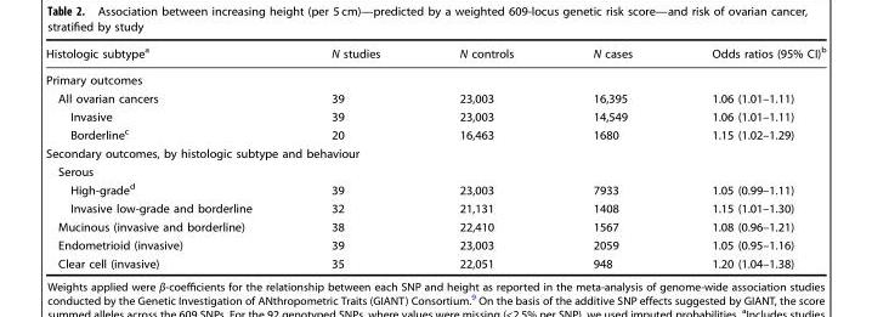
<table><thead><tr><td>Histologic subtype<sup>a</sup></td><td>N studies</td><td>N controls</td><td>N cases</td><td>Odds ratios (95% CI)<sup>b</sup></td></tr></thead><tbody><tr><td colspan="5">Primary outcomes</td></tr><tr><td>All ovarian cancers</td><td>39</td><td>23,003</td><td>16,395</td><td>1.06 (1.01–1.11)</td></tr><tr><td>Invasive</td><td>39</td><td>23,003</td><td>14,549</td><td>1.06 (1.01–1.11)</td></tr><tr><td>Borderline<sup>c</sup></td><td>20</td><td>16,463</td><td>1680</td><td>1.15 (1.02–1.29)</td></tr><tr><td colspan="5">Secondary outcomes, by histologic subtype and behaviour</td></tr><tr><td colspan="5">Serous</td></tr><tr><td>High-grade<sup>d</sup></td><td>39</td><td>23,003</td><td>7933</td><td>1.05 (0.99–1.11)</td></tr><tr><td>Invasive low-grade and borderline</td><td>32</td><td>21,131</td><td>1408</td><td>1.15 (1.01–1.30)</td></tr><tr><td>Mucinous (invasive and borderline)</td><td>38</td><td>22,410</td><td>1567</td><td>1.08 (0.96–1.21)</td></tr><tr><td>Endometrioid (invasive)</td><td>39</td><td>23,003</td><td>2059</td><td>1.05 (0.95–1.16)</td></tr><tr><td>Clear cell (invasive)</td><td>35</td><td>22,051</td><td>948</td><td>1.20 (1.04–1.38)</td></tr></tbody></table>